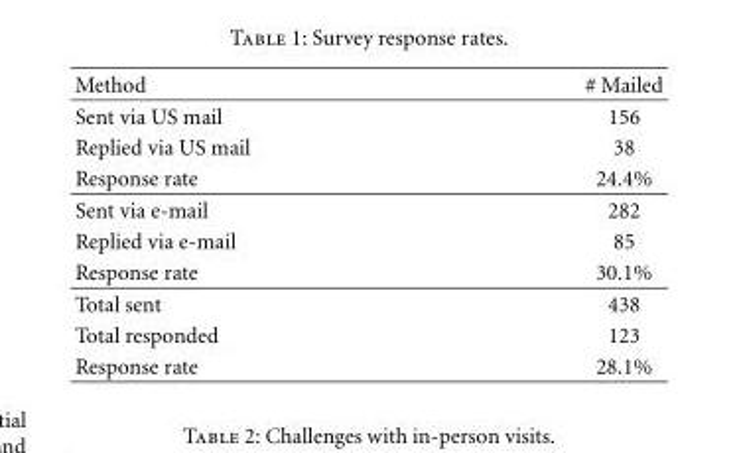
<table><thead><tr><td>Method</td><td># Mailed</td></tr></thead><tbody><tr><td>Sent via US mail</td><td>156</td></tr><tr><td>Replied via US mail</td><td>38</td></tr><tr><td>Response rate</td><td>24.4%</td></tr><tr><td>Sent via e-mail</td><td>282</td></tr><tr><td>Replied via e-mail</td><td>85</td></tr><tr><td>Response rate</td><td>30.1%</td></tr><tr><td>Total sent</td><td>438</td></tr><tr><td>Total responded</td><td>123</td></tr><tr><td>Response rate</td><td>28.1%</td></tr></tbody></table>